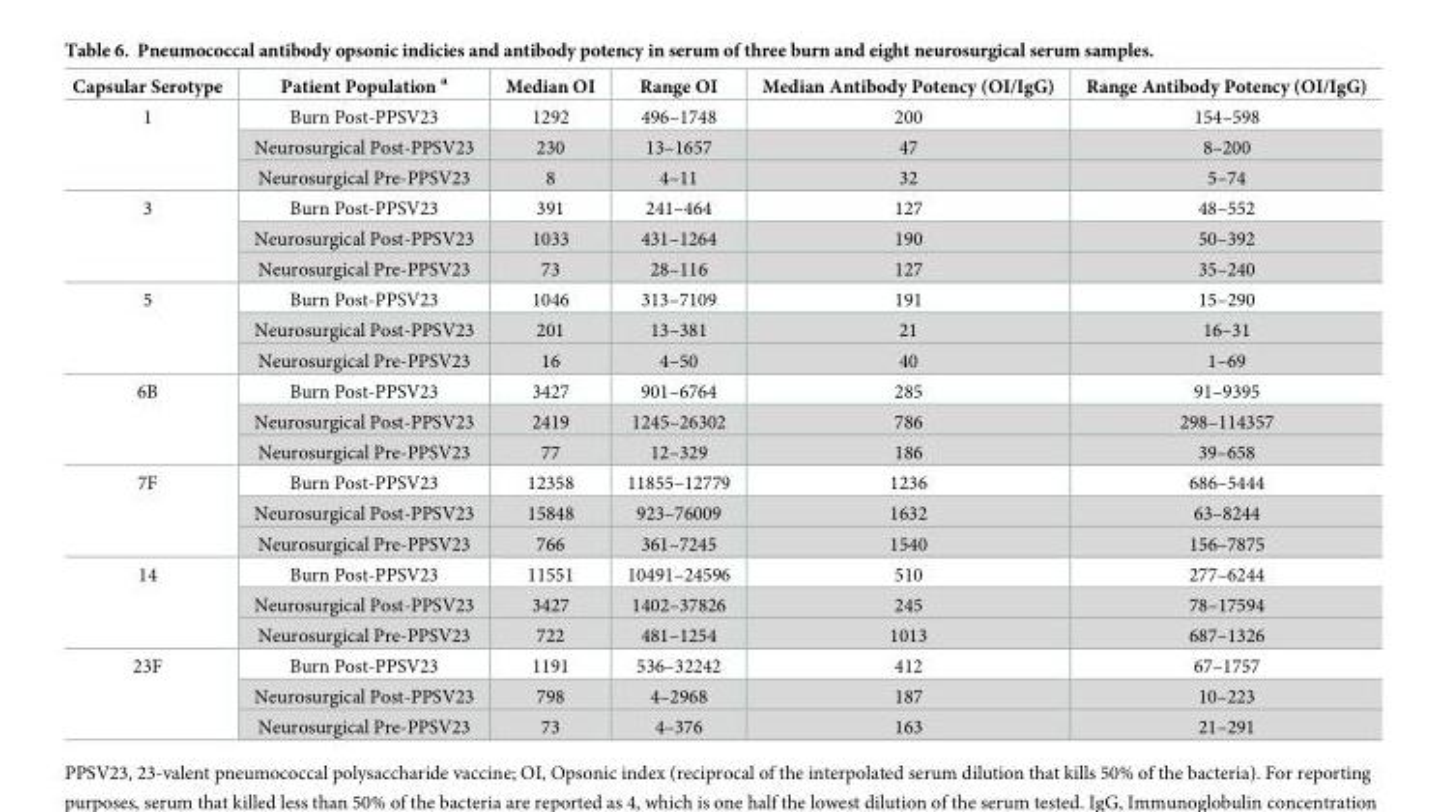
<table><thead><tr><td>Capsular Serotype</td><td>Patient Population <sup>a</sup></td><td>Median OI</td><td>Range OI</td><td>Median Antibody Potency (OI/IgG)</td><td>Range Antibody Potency (OI/IgG)</td></tr></thead><tbody><tr><td rowspan="3">1</td><td>Burn Post-PPSV23</td><td>1292</td><td>496–1748</td><td>200</td><td>154–598</td></tr><tr><td>Neurosurgical Post-PPSV23</td><td>230</td><td>13–1657</td><td>47</td><td>8–200</td></tr><tr><td>Neurosurgical Pre-PPSV23</td><td>8</td><td>4–11</td><td>32</td><td>5–74</td></tr><tr><td rowspan="3">3</td><td>Burn Post-PPSV23</td><td>391</td><td>241–464</td><td>127</td><td>48–552</td></tr><tr><td>Neurosurgical Post-PPSV23</td><td>1033</td><td>431–1264</td><td>190</td><td>50–392</td></tr><tr><td>Neurosurgical Pre-PPSV23</td><td>73</td><td>28–116</td><td>127</td><td>35–240</td></tr><tr><td rowspan="3">5</td><td>Burn Post-PPSV23</td><td>1046</td><td>313–7109</td><td>191</td><td>15–290</td></tr><tr><td>Neurosurgical Post-PPSV23</td><td>201</td><td>13–381</td><td>21</td><td>16–31</td></tr><tr><td>Neurosurgical Pre-PPSV23</td><td>16</td><td>4–50</td><td>40</td><td>1–69</td></tr><tr><td rowspan="3">6B</td><td>Burn Post-PPSV23</td><td>3427</td><td>901–6764</td><td>285</td><td>91–9395</td></tr><tr><td>Neurosurgical Post-PPSV23</td><td>2419</td><td>1245–26302</td><td>786</td><td>298–114357</td></tr><tr><td>Neurosurgical Pre-PPSV23</td><td>77</td><td>12–329</td><td>186</td><td>39–658</td></tr><tr><td rowspan="3">7F</td><td>Burn Post-PPSV23</td><td>12358</td><td>11855–12779</td><td>1236</td><td>686–5444</td></tr><tr><td>Neurosurgical Post-PPSV23</td><td>15848</td><td>923–76009</td><td>1632</td><td>63–8244</td></tr><tr><td>Neurosurgical Pre-PPSV23</td><td>766</td><td>361–7245</td><td>1540</td><td>156–7875</td></tr><tr><td rowspan="3">14</td><td>Burn Post-PPSV23</td><td>11551</td><td>10491–24596</td><td>510</td><td>277–6244</td></tr><tr><td>Neurosurgical Post-PPSV23</td><td>3427</td><td>1402–37826</td><td>245</td><td>78–17594</td></tr><tr><td>Neurosurgical Pre-PPSV23</td><td>722</td><td>481–1254</td><td>1013</td><td>687–1326</td></tr><tr><td rowspan="3">23F</td><td>Burn Post-PPSV23</td><td>1191</td><td>536–32242</td><td>412</td><td>67–1757</td></tr><tr><td>Neurosurgical Post-PPSV23</td><td>798</td><td>4–2968</td><td>187</td><td>10–223</td></tr><tr><td>Neurosurgical Pre-PPSV23</td><td>73</td><td>4–376</td><td>163</td><td>21–291</td></tr></tbody></table>